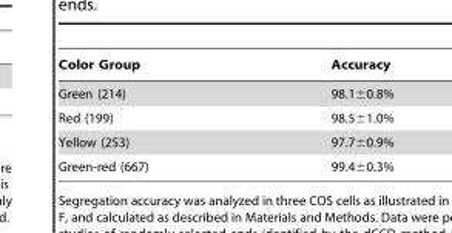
<table><thead><tr><td>Color Group</td><td>Accuracy</td></tr></thead><tbody><tr><td>Green (214)</td><td>98.1±0.8%</td></tr><tr><td>Red (199)</td><td>98.5±1.0%</td></tr><tr><td>Yellow (253)</td><td>97.7±0.9%</td></tr><tr><td>Green-red (667)</td><td>99.4±0.3%</td></tr></tbody></table>